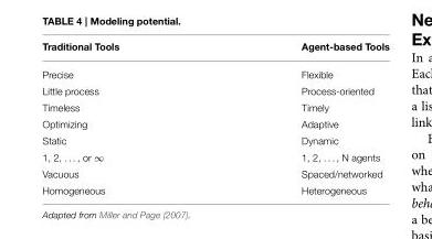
<table><thead><tr><td>Traditional Tools</td><td>Agent-based Tools</td></tr></thead><tbody><tr><td>Precise</td><td>Flexible</td></tr><tr><td>Little process</td><td>Process-oriented</td></tr><tr><td>Timeless</td><td>Timely</td></tr><tr><td>Optimizing</td><td>Adaptive</td></tr><tr><td>Static</td><td>Dynamic</td></tr><tr><td>1, 2, . . . , or ∞</td><td>1, 2, . . . , N agents</td></tr><tr><td>Vacuous</td><td>Spaced/networked</td></tr><tr><td>Homogeneous</td><td>Heterogeneous</td></tr></tbody></table>